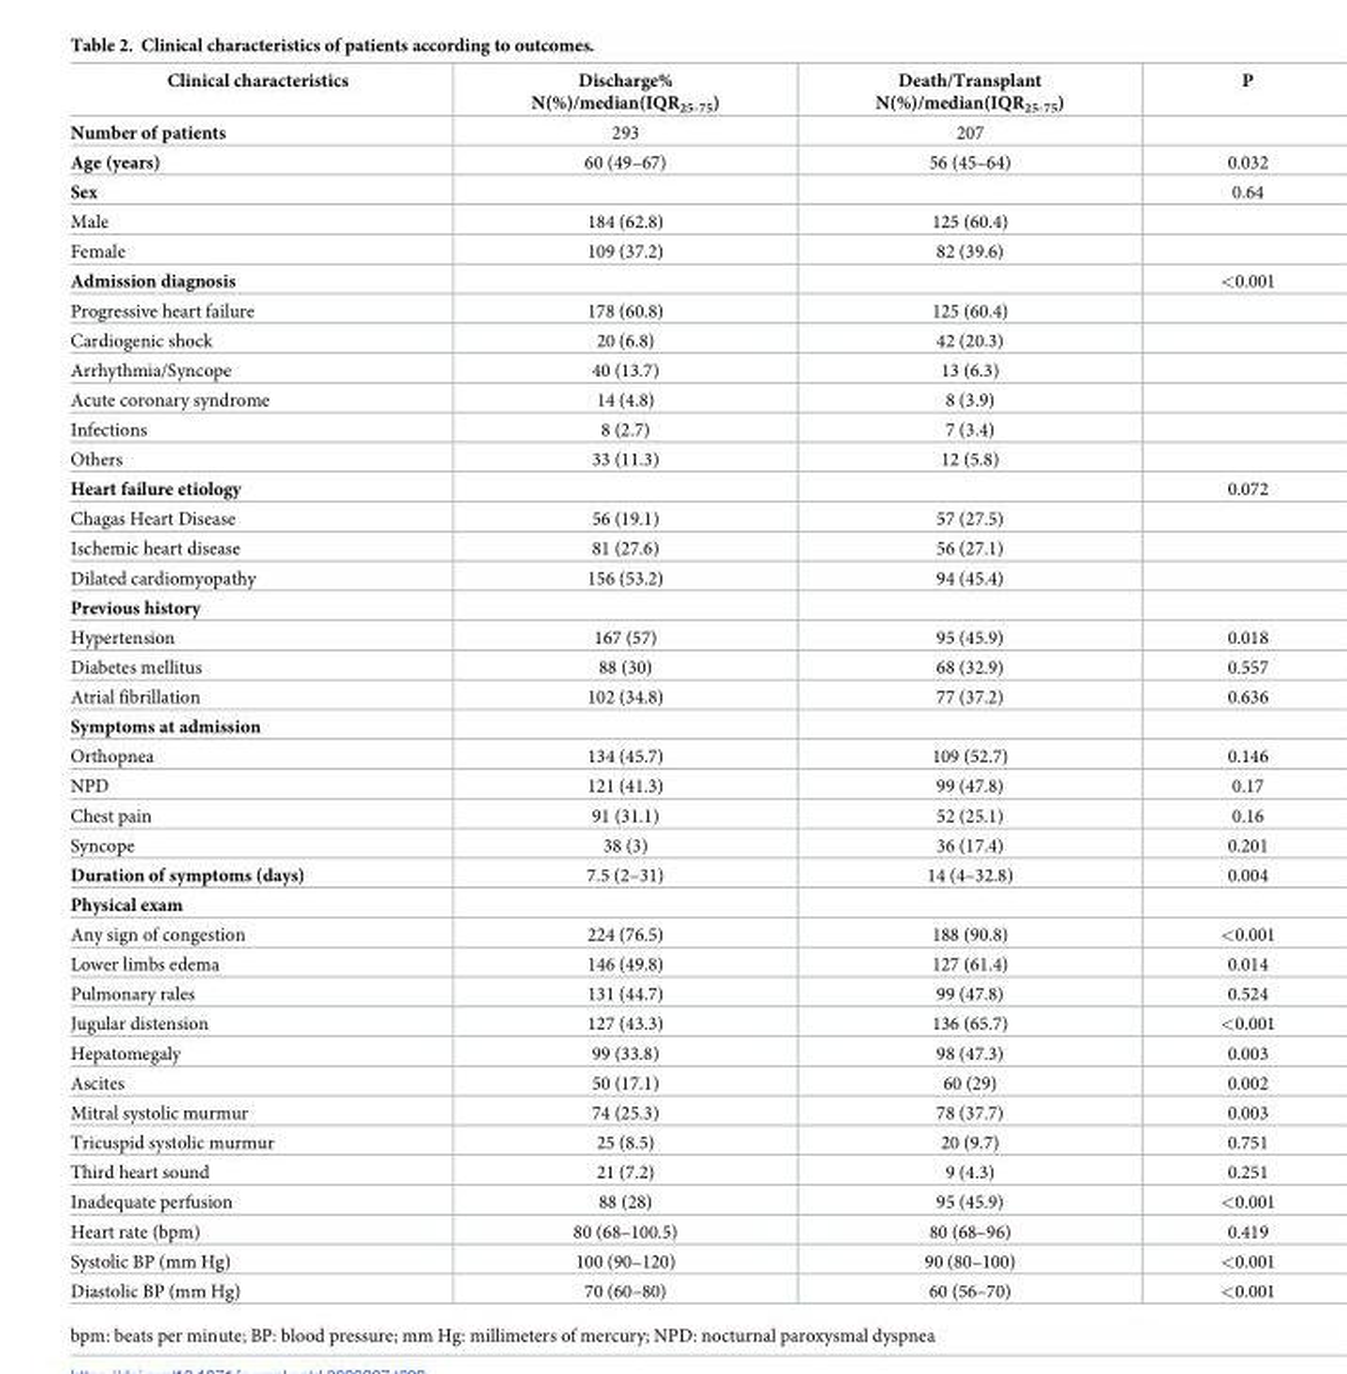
<table><thead><tr><td>Clinical characteristics</td><td>Discharge% N(%)/median(IQR<sub>25-75</sub>)</td><td>Death/Transplant N(%)/median(IQR<sub>25-75</sub>)</td><td>P</td></tr></thead><tbody><tr><td>Number of patients</td><td>293</td><td>207</td><td></td></tr><tr><td>Age (years)</td><td>60 (49–67)</td><td>56 (45–64)</td><td>0.032</td></tr><tr><td>Sex</td><td></td><td></td><td>0.64</td></tr><tr><td>Male</td><td>184 (62.8)</td><td>125 (60.4)</td><td></td></tr><tr><td>Female</td><td>109 (37.2)</td><td>82 (39.6)</td><td></td></tr><tr><td>Admission diagnosis</td><td></td><td></td><td>&lt;0.001</td></tr><tr><td>Progressive heart failure</td><td>178 (60.8)</td><td>125 (60.4)</td><td></td></tr><tr><td>Cardiogenic shock</td><td>20 (6.8)</td><td>42 (20.3)</td><td></td></tr><tr><td>Arrhythmia/Syncope</td><td>40 (13.7)</td><td>13 (6.3)</td><td></td></tr><tr><td>Acute coronary syndrome</td><td>14 (4.8)</td><td>8 (3.9)</td><td></td></tr><tr><td>Infections</td><td>8 (2.7)</td><td>7 (3.4)</td><td></td></tr><tr><td>Others</td><td>33 (11.3)</td><td>12 (5.8)</td><td></td></tr><tr><td>Heart failure etiology</td><td></td><td></td><td>0.072</td></tr><tr><td>Chagas Heart Disease</td><td>56 (19.1)</td><td>57 (27.5)</td><td></td></tr><tr><td>Ischemic heart disease</td><td>81 (27.6)</td><td>56 (27.1)</td><td></td></tr><tr><td>Dilated cardiomyopathy</td><td>156 (53.2)</td><td>94 (45.4)</td><td></td></tr><tr><td colspan="4">Previous history</td></tr><tr><td>Hypertension</td><td>167 (57)</td><td>95 (45.9)</td><td>0.018</td></tr><tr><td>Diabetes mellitus</td><td>88 (30)</td><td>68 (32.9)</td><td>0.557</td></tr><tr><td>Atrial fibrillation</td><td>102 (34.8)</td><td>77 (37.2)</td><td>0.636</td></tr><tr><td colspan="4">Symptoms at admission</td></tr><tr><td>Orthopnea</td><td>134 (45.7)</td><td>109 (52.7)</td><td>0.146</td></tr><tr><td>NPD</td><td>121 (41.3)</td><td>99 (47.8)</td><td>0.17</td></tr><tr><td>Chest pain</td><td>91 (31.1)</td><td>52 (25.1)</td><td>0.16</td></tr><tr><td>Syncope</td><td>38 (3)</td><td>36 (17.4)</td><td>0.201</td></tr><tr><td>Duration of symptoms (days)</td><td>7.5 (2–31)</td><td>14 (4–32.8)</td><td>0.004</td></tr><tr><td colspan="4">Physical exam</td></tr><tr><td>Any sign of congestion</td><td>224 (76.5)</td><td>188 (90.8)</td><td>&lt;0.001</td></tr><tr><td>Lower limbs edema</td><td>146 (49.8)</td><td>127 (61.4)</td><td>0.014</td></tr><tr><td>Pulmonary rales</td><td>131 (44.7)</td><td>99 (47.8)</td><td>0.524</td></tr><tr><td>Jugular distension</td><td>127 (43.3)</td><td>136 (65.7)</td><td>&lt;0.001</td></tr><tr><td>Hepatomegaly</td><td>99 (33.8)</td><td>98 (47.3)</td><td>0.003</td></tr><tr><td>Ascites</td><td>50 (17.1)</td><td>60 (29)</td><td>0.002</td></tr><tr><td>Mitral systolic murmur</td><td>74 (25.3)</td><td>78 (37.7)</td><td>0.003</td></tr><tr><td>Tricuspid systolic murmur</td><td>25 (8.5)</td><td>20 (9.7)</td><td>0.751</td></tr><tr><td>Third heart sound</td><td>21 (7.2)</td><td>9 (4.3)</td><td>0.251</td></tr><tr><td>Inadequate perfusion</td><td>88 (28)</td><td>95 (45.9)</td><td>&lt;0.001</td></tr><tr><td>Heart rate (bpm)</td><td>80 (68–100.5)</td><td>80 (68–96)</td><td>0.419</td></tr><tr><td>Systolic BP (mm Hg)</td><td>100 (90–120)</td><td>90 (80–100)</td><td>&lt;0.001</td></tr><tr><td>Diastolic BP (mm Hg)</td><td>70 (60–80)</td><td>60 (56–70)</td><td>&lt;0.001</td></tr></tbody></table>